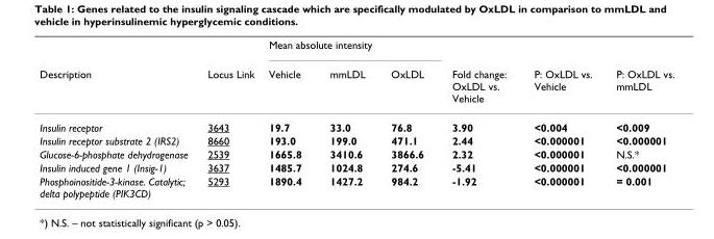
<table><thead><tr><td rowspan="2">Description</td><td rowspan="2">Locus Link</td><td colspan="3">Mean absolute intensity</td><td rowspan="2">Fold change: OxLDL vs. Vehicle</td><td rowspan="2">P: OxLDL vs. Vehicle</td><td rowspan="2">P: OxLDL vs. mmLDL</td></tr><tr><td>Vehicle</td><td>mmLDL</td><td>OxLDL</td></tr></thead><tbody><tr><td>Insulin receptor</td><td>3643</td><td>19.7</td><td>33.0</td><td>76.8</td><td>3.90</td><td>&lt;0.004</td><td>&lt;0.009</td></tr><tr><td>Insulin receptor substrate 2 (IRS2)</td><td>8660</td><td>193.0</td><td>199.0</td><td>471.1</td><td>2.44</td><td>&lt;0.000001</td><td>&lt;0.000001</td></tr><tr><td>Glucose-6-phosphate dehydrogenase</td><td>2539</td><td>1665.8</td><td>3410.6</td><td>3866.6</td><td>2.32</td><td>&lt;0.000001</td><td>N.S.*</td></tr><tr><td>Insulin induced gene 1 (Insig-1)</td><td>3637</td><td>1485.7</td><td>1024.8</td><td>274.6</td><td>-5.41</td><td>&lt;0.000001</td><td>&lt;0.000001</td></tr><tr><td>Phosphoinositide-3-kinase. Catalytic; delta polypeptide (PIK3CD)</td><td>5293</td><td>1890.4</td><td>1427.2</td><td>984.2</td><td>-1.92</td><td>&lt;0.000001</td><td>= 0.001</td></tr></tbody></table>